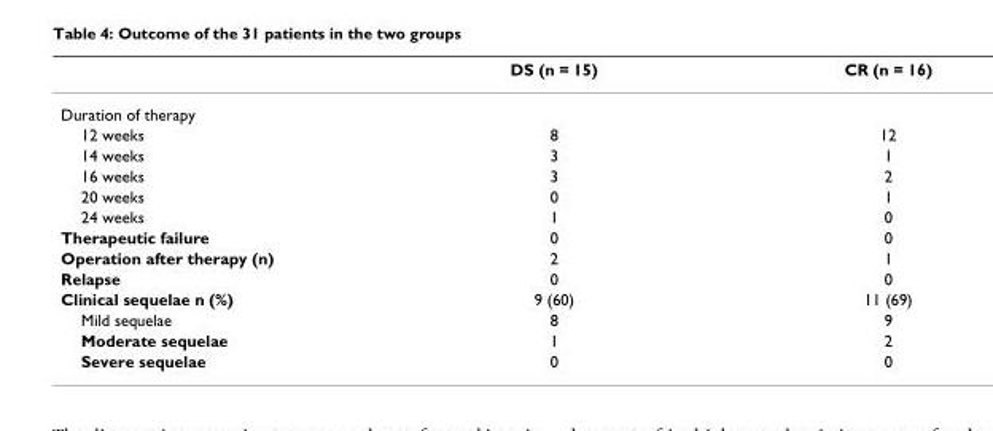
<table><thead><tr><td></td><td>DS (n = 15)</td><td>CR (n = 16)</td></tr></thead><tbody><tr><td colspan="3">Duration of therapy</td></tr><tr><td>12 weeks</td><td>8</td><td>12</td></tr><tr><td>14 weeks</td><td>3</td><td>1</td></tr><tr><td>16 weeks</td><td>3</td><td>2</td></tr><tr><td>20 weeks</td><td>0</td><td>1</td></tr><tr><td>24 weeks</td><td>1</td><td>0</td></tr><tr><td>Therapeutic failure</td><td>0</td><td>0</td></tr><tr><td>Operation after therapy (n)</td><td>2</td><td>1</td></tr><tr><td>Relapse</td><td>0</td><td>0</td></tr><tr><td>Clinical sequelae n (%)</td><td>9 (60)</td><td>11 (69)</td></tr><tr><td>Mild sequelae</td><td>8</td><td>9</td></tr><tr><td>Moderate sequelae</td><td>1</td><td>2</td></tr><tr><td>Severe sequelae</td><td>0</td><td>0</td></tr></tbody></table>